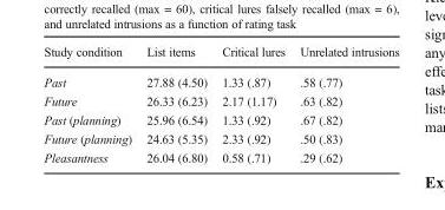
<table><thead><tr><td>Study condition</td><td>List items</td><td>Critical lures</td><td>Unrelated intrusions</td></tr></thead><tbody><tr><td>Past</td><td>27.88 (4.50)</td><td>1.33 (.87)</td><td>.58 (.77)</td></tr><tr><td>Future</td><td>26.33 (6.23)</td><td>2.17 (1.17)</td><td>.63 (.82)</td></tr><tr><td>Past (planning)</td><td>25.96 (6.54)</td><td>1.33 (.92)</td><td>.67 (.82)</td></tr><tr><td>Future (planning)</td><td>24.63 (5.35)</td><td>2.33 (.92)</td><td>.50 (.83)</td></tr><tr><td>Pleasantness</td><td>26.04 (6.80)</td><td>0.58 (.71)</td><td>.29 (.62)</td></tr></tbody></table>